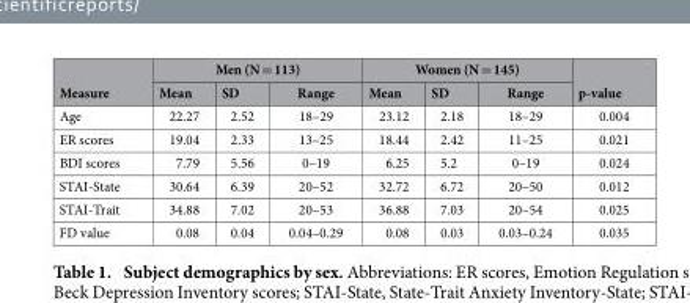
<table><thead><tr><td rowspan="2">Measure</td><td colspan="3">Men (N = 113)</td><td colspan="3">Women (N = 145)</td><td rowspan="2">p-value</td></tr><tr><td>Mean</td><td>SD</td><td>Range</td><td>Mean</td><td>SD</td><td>Range</td></tr></thead><tbody><tr><td>Age</td><td>22.27</td><td>2.52</td><td>18–29</td><td>23.12</td><td>2.18</td><td>18–29</td><td>0.004</td></tr><tr><td>ER scores</td><td>19.04</td><td>2.33</td><td>13–25</td><td>18.44</td><td>2.42</td><td>11–25</td><td>0.021</td></tr><tr><td>BDI scores</td><td>7.79</td><td>5.56</td><td>0–19</td><td>6.25</td><td>5.2</td><td>0–19</td><td>0.024</td></tr><tr><td>STAI-State</td><td>30.64</td><td>6.39</td><td>20–52</td><td>32.72</td><td>6.72</td><td>20–50</td><td>0.012</td></tr><tr><td>STAI-Trait</td><td>34.88</td><td>7.02</td><td>20–53</td><td>36.88</td><td>7.03</td><td>20–54</td><td>0.025</td></tr><tr><td>FD value</td><td>0.08</td><td>0.04</td><td>0.04–0.29</td><td>0.08</td><td>0.03</td><td>0.03–0.24</td><td>0.035</td></tr></tbody></table>